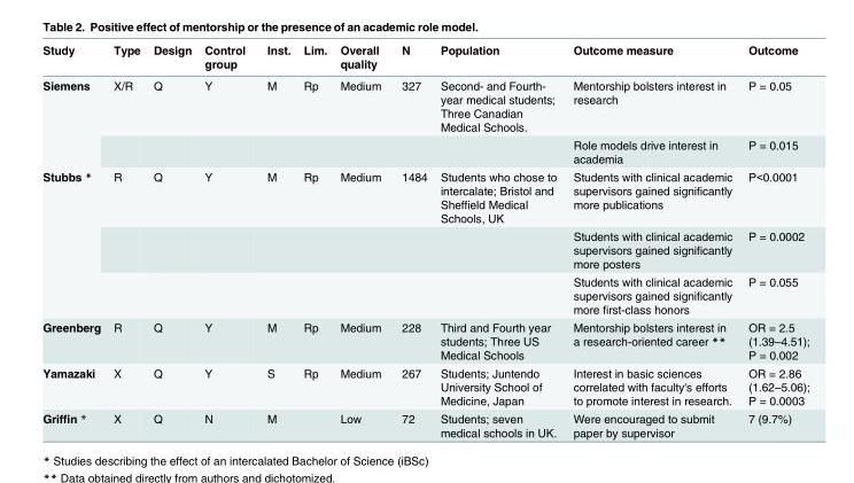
<table><thead><tr><td>Study</td><td>Type</td><td>Design</td><td>Control group</td><td>Inst.</td><td>Lim.</td><td>Overall quality</td><td>N</td><td>Population</td><td>Outcome measure</td><td>Outcome</td></tr></thead><tbody><tr><td rowspan="2">Siemens</td><td>X/R</td><td>Q</td><td>Y</td><td>M</td><td>Rp</td><td>Medium</td><td>327</td><td>Second- and Fourth- year medical students; Three Canadian Medical Schools.</td><td>Mentorship bolsters interest in research</td><td>P = 0.05</td></tr><tr><td></td><td></td><td></td><td></td><td></td><td></td><td></td><td></td><td>Role models drive interest in academia</td><td>P = 0.015</td></tr><tr><td rowspan="3">Stubbs *</td><td>R</td><td>Q</td><td>Y</td><td>M</td><td>Rp</td><td>Medium</td><td>1484</td><td>Students who chose to intercalate; Bristol and Sheffield Medical Schools, UK</td><td>Students with clinical academic supervisors gained significantly more publications</td><td>P&lt;0.0001</td></tr><tr><td></td><td></td><td></td><td></td><td></td><td></td><td></td><td></td><td>Students with clinical academic supervisors gained significantly more posters</td><td>P = 0.0002</td></tr><tr><td></td><td></td><td></td><td></td><td></td><td></td><td></td><td></td><td>Students with clinical academic supervisors gained significantly more first-class honors</td><td>P = 0.055</td></tr><tr><td>Greenberg</td><td>R</td><td>Q</td><td>Y</td><td>M</td><td>Rp</td><td>Medium</td><td>228</td><td>Third and Fourth year students; Three US Medical Schools</td><td>Mentorship bolsters interest in a research-oriented career **</td><td>OR = 2.5 (1.39–4.51); P = 0.002</td></tr><tr><td>Yamazaki</td><td>X</td><td>Q</td><td>Y</td><td>S</td><td>Rp</td><td>Medium</td><td>267</td><td>Students; Juntendo University School of Medicine, Japan</td><td>Interest in basic sciences correlated with faculty&#x27;s efforts to promote interest in research.</td><td>OR = 2.86 (1.62–5.06); P = 0.0003</td></tr><tr><td>Griffin *</td><td>X</td><td>Q</td><td>N</td><td>M</td><td></td><td>Low</td><td>72</td><td>Students; seven medical schools in UK.</td><td>Were encouraged to submit paper by supervisor</td><td>7 (9.7%)</td></tr></tbody></table>